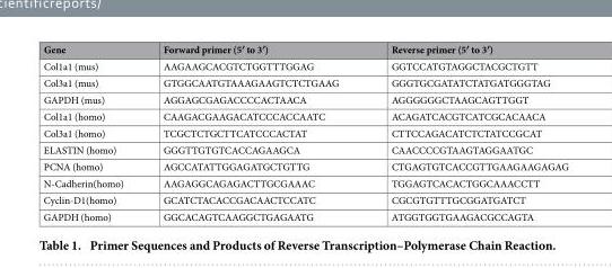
<table><thead><tr><td>Gene</td><td>Forward primer (5′ to 3′)</td><td>Reverse primer (5′ to 3′)</td></tr></thead><tbody><tr><td>Col1a1 (mus)</td><td>AAGAAGCACGTCTGGTTTGGAG</td><td>GGTCCATGTAGGCTACGCTGTT</td></tr><tr><td>Col3a1 (mus)</td><td>GTGGCAATGTAAAGAAGTCTCTGAAG</td><td>GGGTGCGATATCTATGATGGGTAG</td></tr><tr><td>GAPDH (mus)</td><td>AGGAGCGAGACCCCACTAACA</td><td>AGGGGGGCTAAGCAGTTGGT</td></tr><tr><td>Col1a1 (homo)</td><td>CAAGACGAAGACATCCCACCAATC</td><td>ACAGATCACGTCATCGCACAACA</td></tr><tr><td>Col3a1 (homo)</td><td>TCGCTCTGCTTCATCCCACTAT</td><td>CTTCCAGACATCTCTATCCGCAT</td></tr><tr><td>ELASTIN (homo)</td><td>GGGTTGTGTCACCAGAAGCA</td><td>CAACCCCGTAAGTAGGAATGC</td></tr><tr><td>PCNA (homo)</td><td>AGCCATATTGGAGATGCTGTTG</td><td>CTGAGTGTCACCGTTGAAGAAGAGAG</td></tr><tr><td>N-Cadherin(homo)</td><td>AAGAGGCAGAGACTTGCGAAAC</td><td>TGGAGTCACACTGGCAAACCTT</td></tr><tr><td>Cyclin-D1(homo)</td><td>GCATCTACACCGACAACTCCATC</td><td>CGCGTGTTTGCGGATGATCT</td></tr><tr><td>GAPDH (homo)</td><td>GGCACAGTCAAGGCTGAGAATG</td><td>ATGGTGGTGAAGACGCCAGTA</td></tr></tbody></table>